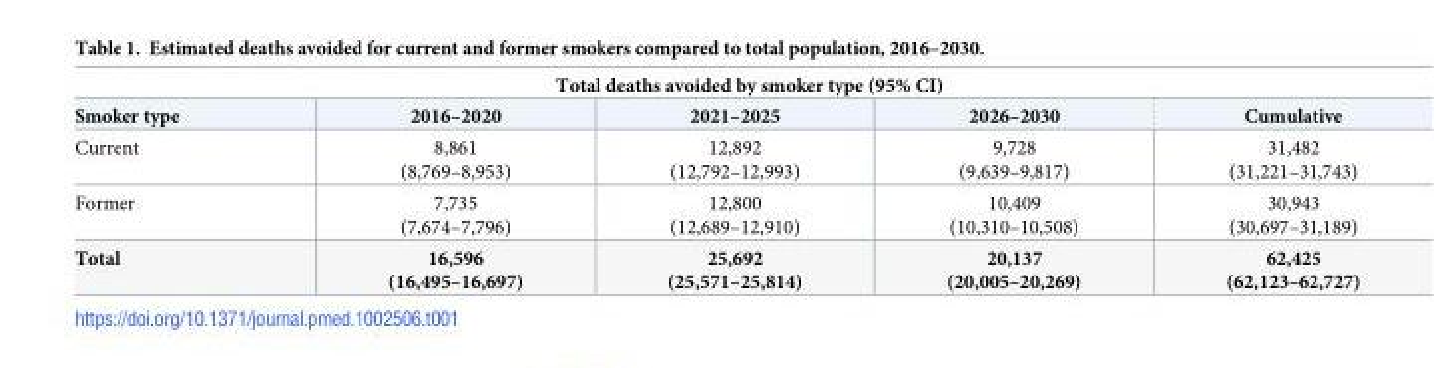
<table><thead><tr><td colspan="5">Total deaths avoided by smoker type (95% CI)</td></tr><tr><td>Smoker type</td><td>2016–2020</td><td>2021–2025</td><td>2026–2030</td><td>Cumulative</td></tr></thead><tbody><tr><td>Current</td><td>8,861 (8,769–8,953)</td><td>12,892 (12,792–12,993)</td><td>9,728 (9,639–9,817)</td><td>31,482 (31,221–31,743)</td></tr><tr><td>Former</td><td>7,735 (7,674–7,796)</td><td>12,800 (12,689–12,910)</td><td>10,409 (10,310–10,508)</td><td>30,943 (30,697–31,189)</td></tr><tr><td>Total</td><td>16,596 (16,495–16,697)</td><td>25,692 (25,571–25,814)</td><td>20,137 (20,005–20,269)</td><td>62,425 (62,123–62,727)</td></tr></tbody></table>